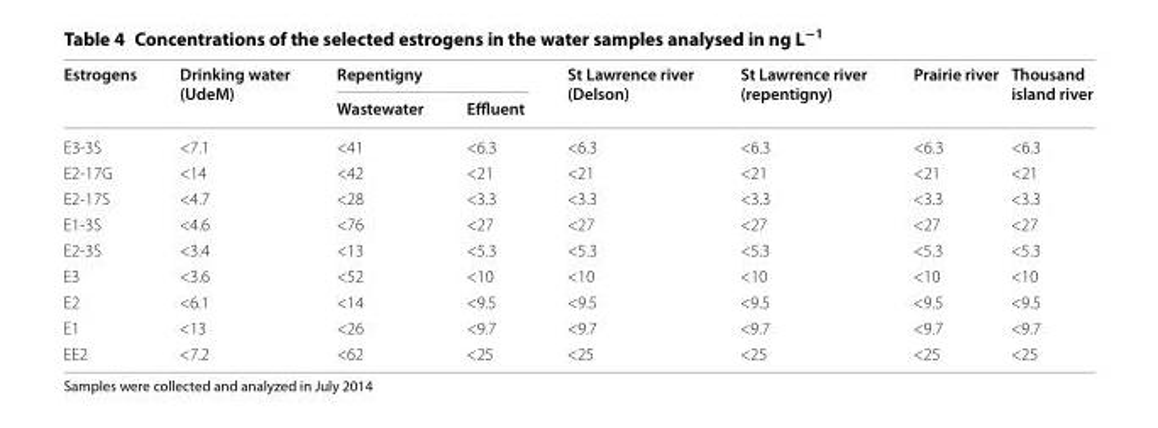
<table><thead><tr><td rowspan="2">Estrogens</td><td rowspan="2">Drinking water (UdeM)</td><td colspan="2">Repentigny</td><td rowspan="2">St Lawrence river (Delson)</td><td rowspan="2">St Lawrence river (repentigny)</td><td rowspan="2">Prairie river</td><td rowspan="2">Thousand island river</td></tr><tr><td>Wastewater</td><td>Effluent</td></tr></thead><tbody><tr><td>E3-3S</td><td>&lt;7.1</td><td>&lt;41</td><td>&lt;6.3</td><td>&lt;6.3</td><td>&lt;6.3</td><td>&lt;6.3</td><td>&lt;6.3</td></tr><tr><td>E2-17G</td><td>&lt;14</td><td>&lt;42</td><td>&lt;21</td><td>&lt;21</td><td>&lt;21</td><td>&lt;21</td><td>&lt;21</td></tr><tr><td>E2-17S</td><td>&lt;4.7</td><td>&lt;28</td><td>&lt;3.3</td><td>&lt;3.3</td><td>&lt;3.3</td><td>&lt;3.3</td><td>&lt;3.3</td></tr><tr><td>E1-3S</td><td>&lt;4.6</td><td>&lt;76</td><td>&lt;27</td><td>&lt;27</td><td>&lt;27</td><td>&lt;27</td><td>&lt;27</td></tr><tr><td>E2-3S</td><td>&lt;3.4</td><td>&lt;13</td><td>&lt;5.3</td><td>&lt;5.3</td><td>&lt;5.3</td><td>&lt;5.3</td><td>&lt;5.3</td></tr><tr><td>E3</td><td>&lt;3.6</td><td>&lt;52</td><td>&lt;10</td><td>&lt;10</td><td>&lt;10</td><td>&lt;10</td><td>&lt;10</td></tr><tr><td>E2</td><td>&lt;6.1</td><td>&lt;14</td><td>&lt;9.5</td><td>&lt;9.5</td><td>&lt;9.5</td><td>&lt;9.5</td><td>&lt;9.5</td></tr><tr><td>E1</td><td>&lt;13</td><td>&lt;26</td><td>&lt;9.7</td><td>&lt;9.7</td><td>&lt;9.7</td><td>&lt;9.7</td><td>&lt;9.7</td></tr><tr><td>EE2</td><td>&lt;7.2</td><td>&lt;62</td><td>&lt;25</td><td>&lt;25</td><td>&lt;25</td><td>&lt;25</td><td>&lt;25</td></tr></tbody></table>